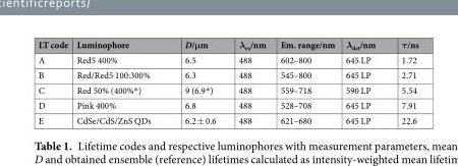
<table><thead><tr><td>LT code</td><td>Luminophore</td><td>D/μm</td><td>λ<sub>ex</sub>/nm</td><td>Em. range/nm</td><td>λ<sub>det</sub>/nm</td><td>τ/ns</td></tr></thead><tbody><tr><td>A</td><td>Red5 400%</td><td>6.5</td><td>488</td><td>602–800</td><td>645 LP</td><td>1.72</td></tr><tr><td>B</td><td>Red/Red5 100:300%</td><td>6.3</td><td>488</td><td>545–800</td><td>645 LP</td><td>2.71</td></tr><tr><td>C</td><td>Red 50% (400%*)</td><td>9 (6.9*)</td><td>488</td><td>559–718</td><td>590 LP</td><td>5.54</td></tr><tr><td>D</td><td>Pink 400%</td><td>6.8</td><td>488</td><td>528–708</td><td>645 LP</td><td>7.91</td></tr><tr><td>E</td><td>CdSe/CdS/ZnS QDs</td><td>6.2 ± 0.6</td><td>488</td><td>621–680</td><td>645 LP</td><td>22.6</td></tr></tbody></table>